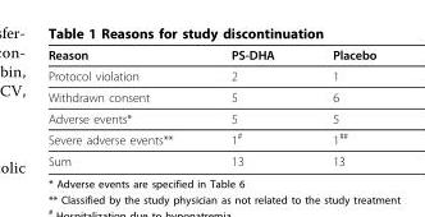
<table><thead><tr><td>Reason</td><td>PS-DHA</td><td>Placebo</td></tr></thead><tbody><tr><td>Protocol violation</td><td>2</td><td>1</td></tr><tr><td>Withdrawn consent</td><td>5</td><td>6</td></tr><tr><td>Adverse events*</td><td>5</td><td>5</td></tr><tr><td>Severe adverse events**</td><td>1<sup>#</sup></td><td>1<sup>##</sup></td></tr><tr><td>Sum</td><td>13</td><td>13</td></tr></tbody></table>